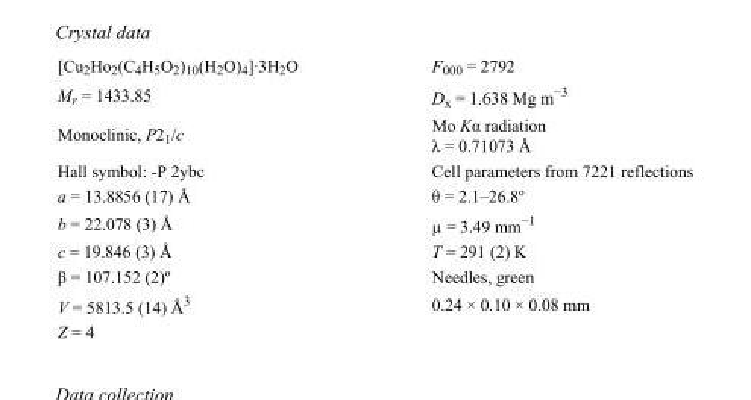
<table><tbody><tr><td>[Cu<sub>2</sub>Ho<sub>2</sub>(C<sub>4</sub>H<sub>5</sub>O<sub>2</sub>)<sub>10</sub>(H<sub>2</sub>O)<sub>4</sub>]·3H<sub>2</sub>O</td><td>F000 = 2792</td></tr><tr><td>M<sub>r</sub> = 1433.85</td><td>D<sub>x</sub> = 1.638 Mg m<sup>−3</sup></td></tr><tr><td>Monoclinic, P2<sub>1</sub>/c</td><td>Mo Kα radiation λ = 0.71073 Å</td></tr><tr><td>Hall symbol: -P 2ybc</td><td>Cell parameters from 7221 reflections</td></tr><tr><td>a = 13.8856 (17) Å</td><td>θ = 2.1–26.8º</td></tr><tr><td>b = 22.078 (3) Å</td><td>µ = 3.49 mm<sup>−1</sup></td></tr><tr><td>c = 19.846 (3) Å</td><td>T = 291 (2) K</td></tr><tr><td>β = 107.152 (2)º</td><td>Needles, green</td></tr><tr><td>V = 5813.5 (14) Å<sup>3</sup></td><td>0.24 × 0.10 × 0.08 mm</td></tr><tr><td>Z = 4</td><td></td></tr></tbody></table>